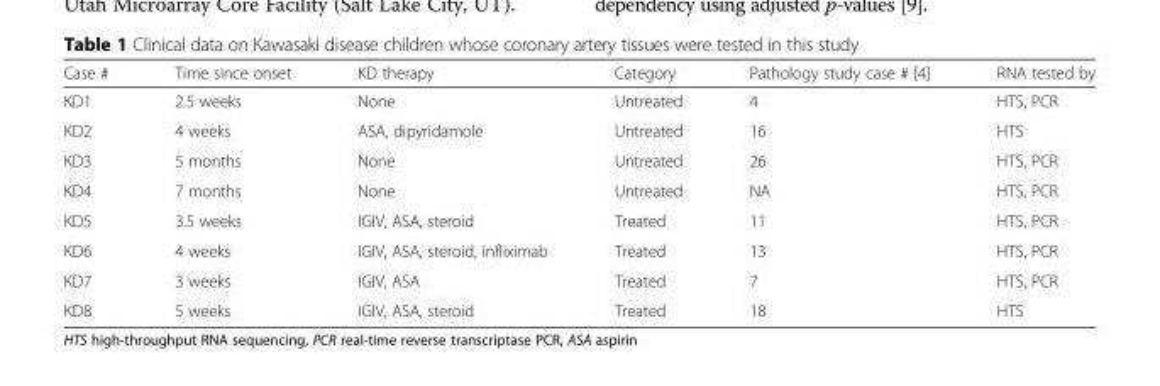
<table><thead><tr><td>Case #</td><td>Time since onset</td><td>KD therapy</td><td>Category</td><td>Pathology study case # [4]</td><td>RNA tested by</td></tr></thead><tbody><tr><td>KD1</td><td>2.5 weeks</td><td>None</td><td>Untreated</td><td>4</td><td>HTS, PCR</td></tr><tr><td>KD2</td><td>4 weeks</td><td>ASA, dipyridamole</td><td>Untreated</td><td>16</td><td>HTS</td></tr><tr><td>KD3</td><td>5 months</td><td>None</td><td>Untreated</td><td>26</td><td>HTS, PCR</td></tr><tr><td>KD4</td><td>7 months</td><td>None</td><td>Untreated</td><td>NA</td><td>HTS, PCR</td></tr><tr><td>KD5</td><td>3.5 weeks</td><td>IGIV, ASA, steroid</td><td>Treated</td><td>11</td><td>HTS, PCR</td></tr><tr><td>KD6</td><td>4 weeks</td><td>IGIV, ASA, steroid, infliximab</td><td>Treated</td><td>13</td><td>HTS, PCR</td></tr><tr><td>KD7</td><td>3 weeks</td><td>IGIV, ASA</td><td>Treated</td><td>7</td><td>HTS, PCR</td></tr><tr><td>KD8</td><td>5 weeks</td><td>IGIV, ASA, steroid</td><td>Treated</td><td>18</td><td>HTS</td></tr></tbody></table>